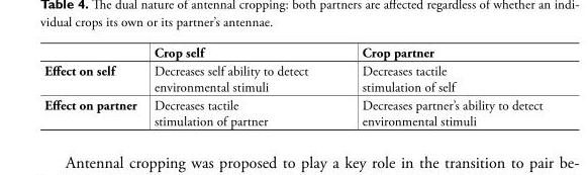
<table><thead><tr><td></td><td>Crop self</td><td>Crop partner</td></tr></thead><tbody><tr><td>Effect on self</td><td>Decreases self ability to detect environmental stimuli</td><td>Decreases tactile stimulation of self</td></tr><tr><td>Effect on partner</td><td>Decreases tactile stimulation of partner</td><td>Decreases partner’s ability to detect environmental stimuli</td></tr></tbody></table>